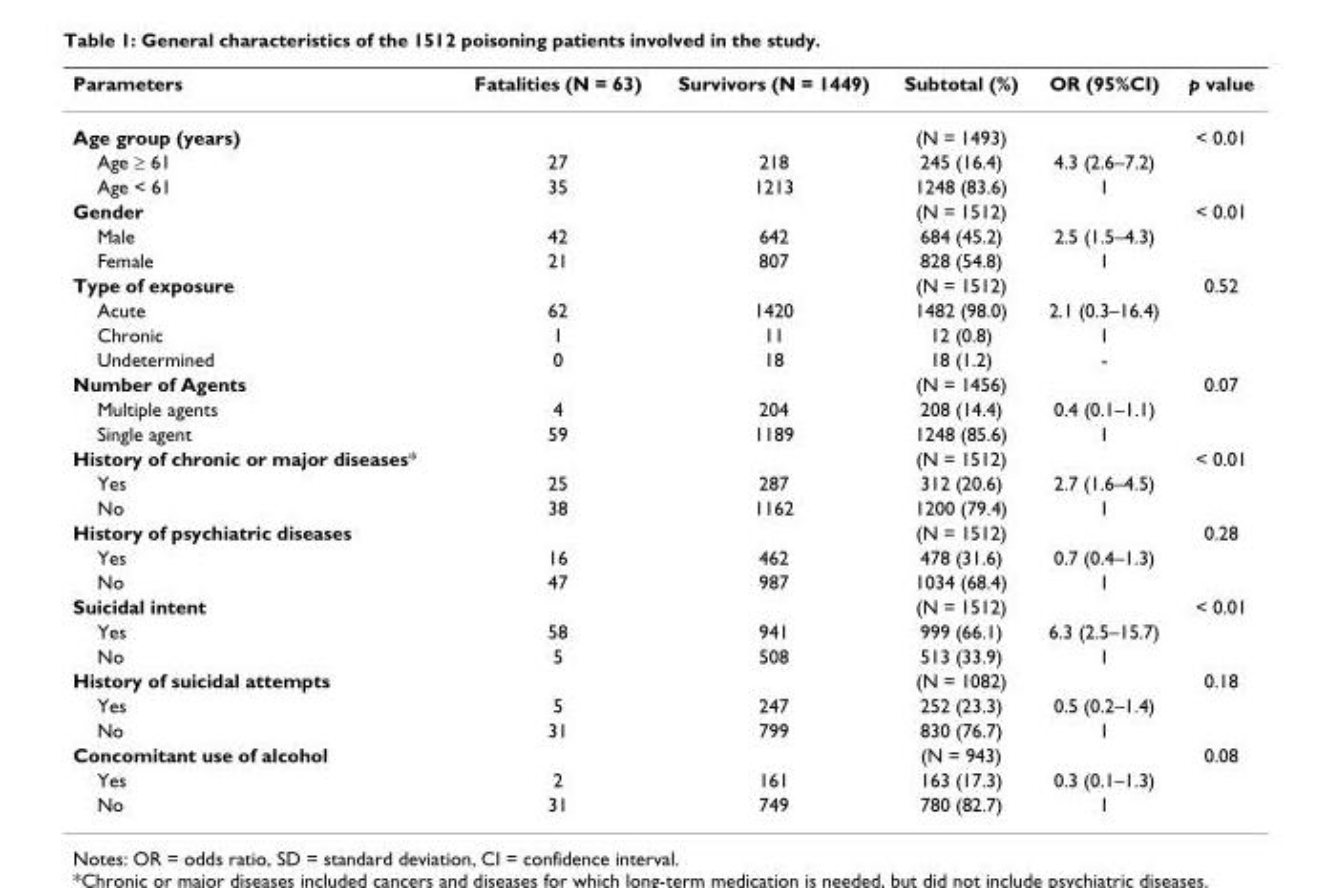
<table><thead><tr><td>Parameters</td><td>Fatalities (N = 63)</td><td>Survivors (N = 1449)</td><td>Subtotal (%)</td><td>OR (95%CI)</td><td>p value</td></tr></thead><tbody><tr><td>Age group (years)</td><td></td><td></td><td>(N = 1493)</td><td></td><td>&lt; 0.01</td></tr><tr><td>Age ≥ 61</td><td>27</td><td>218</td><td>245 (16.4)</td><td>4.3 (2.6–7.2)</td><td></td></tr><tr><td>Age &lt; 61</td><td>35</td><td>1213</td><td>1248 (83.6)</td><td>1</td><td></td></tr><tr><td>Gender</td><td></td><td></td><td>(N = 1512)</td><td></td><td>&lt; 0.01</td></tr><tr><td>Male</td><td>42</td><td>642</td><td>684 (45.2)</td><td>2.5 (1.5–4.3)</td><td></td></tr><tr><td>Female</td><td>21</td><td>807</td><td>828 (54.8)</td><td>1</td><td></td></tr><tr><td>Type of exposure</td><td></td><td></td><td>(N = 1512)</td><td></td><td>0.52</td></tr><tr><td>Acute</td><td>62</td><td>1420</td><td>1482 (98.0)</td><td>2.1 (0.3–16.4)</td><td></td></tr><tr><td>Chronic</td><td>1</td><td>11</td><td>12 (0.8)</td><td>1</td><td></td></tr><tr><td>Undetermined</td><td>0</td><td>18</td><td>18 (1.2)</td><td>-</td><td></td></tr><tr><td>Number of Agents</td><td></td><td></td><td>(N = 1456)</td><td></td><td>0.07</td></tr><tr><td>Multiple agents</td><td>4</td><td>204</td><td>208 (14.4)</td><td>0.4 (0.1–1.1)</td><td></td></tr><tr><td>Single agent</td><td>59</td><td>1189</td><td>1248 (85.6)</td><td>1</td><td></td></tr><tr><td>History of chronic or major diseases*</td><td></td><td></td><td>(N = 1512)</td><td></td><td>&lt; 0.01</td></tr><tr><td>Yes</td><td>25</td><td>287</td><td>312 (20.6)</td><td>2.7 (1.6–4.5)</td><td></td></tr><tr><td>No</td><td>38</td><td>1162</td><td>1200 (79.4)</td><td>1</td><td></td></tr><tr><td>History of psychiatric diseases</td><td></td><td></td><td>(N = 1512)</td><td></td><td>0.28</td></tr><tr><td>Yes</td><td>16</td><td>462</td><td>478 (31.6)</td><td>0.7 (0.4–1.3)</td><td></td></tr><tr><td>No</td><td>47</td><td>987</td><td>1034 (68.4)</td><td>1</td><td></td></tr><tr><td>Suicidal intent</td><td></td><td></td><td>(N = 1512)</td><td></td><td>&lt; 0.01</td></tr><tr><td>Yes</td><td>58</td><td>941</td><td>999 (66.1)</td><td>6.3 (2.5–15.7)</td><td></td></tr><tr><td>No</td><td>5</td><td>508</td><td>513 (33.9)</td><td>1</td><td></td></tr><tr><td>History of suicidal attempts</td><td></td><td></td><td>(N = 1082)</td><td></td><td>0.18</td></tr><tr><td>Yes</td><td>5</td><td>247</td><td>252 (23.3)</td><td>0.5 (0.2–1.4)</td><td></td></tr><tr><td>No</td><td>31</td><td>799</td><td>830 (76.7)</td><td>1</td><td></td></tr><tr><td>Concomitant use of alcohol</td><td></td><td></td><td>(N = 943)</td><td></td><td>0.08</td></tr><tr><td>Yes</td><td>2</td><td>161</td><td>163 (17.3)</td><td>0.3 (0.1–1.3)</td><td></td></tr><tr><td>No</td><td>31</td><td>749</td><td>780 (82.7)</td><td>1</td><td></td></tr></tbody></table>